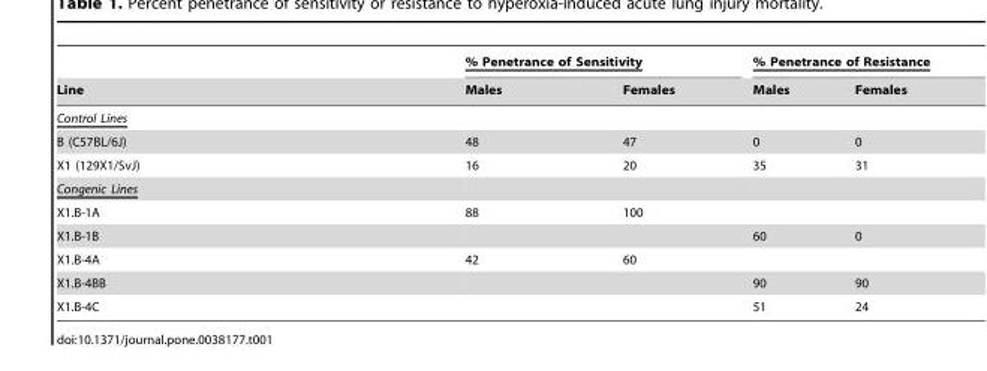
<table><thead><tr><td rowspan="2">Line</td><td colspan="2">% Penetrance of Sensitivity</td><td colspan="2">% Penetrance of Resistance</td></tr><tr><td>Males</td><td>Females</td><td>Males</td><td>Females</td></tr></thead><tbody><tr><td colspan="5">Control Lines</td></tr><tr><td>B (C57BL/6J)</td><td>48</td><td>47</td><td>0</td><td>0</td></tr><tr><td>X1 (129X1/SvJ)</td><td>16</td><td>20</td><td>35</td><td>31</td></tr><tr><td colspan="5">Congenic Lines</td></tr><tr><td>X1.B-1A</td><td>88</td><td>100</td><td></td><td></td></tr><tr><td>X1.B-1B</td><td></td><td></td><td>60</td><td>0</td></tr><tr><td>X1.B-4A</td><td>42</td><td>60</td><td></td><td></td></tr><tr><td>X1.B-4BB</td><td></td><td></td><td>90</td><td>90</td></tr><tr><td>X1.B-4C</td><td></td><td></td><td>51</td><td>24</td></tr></tbody></table>